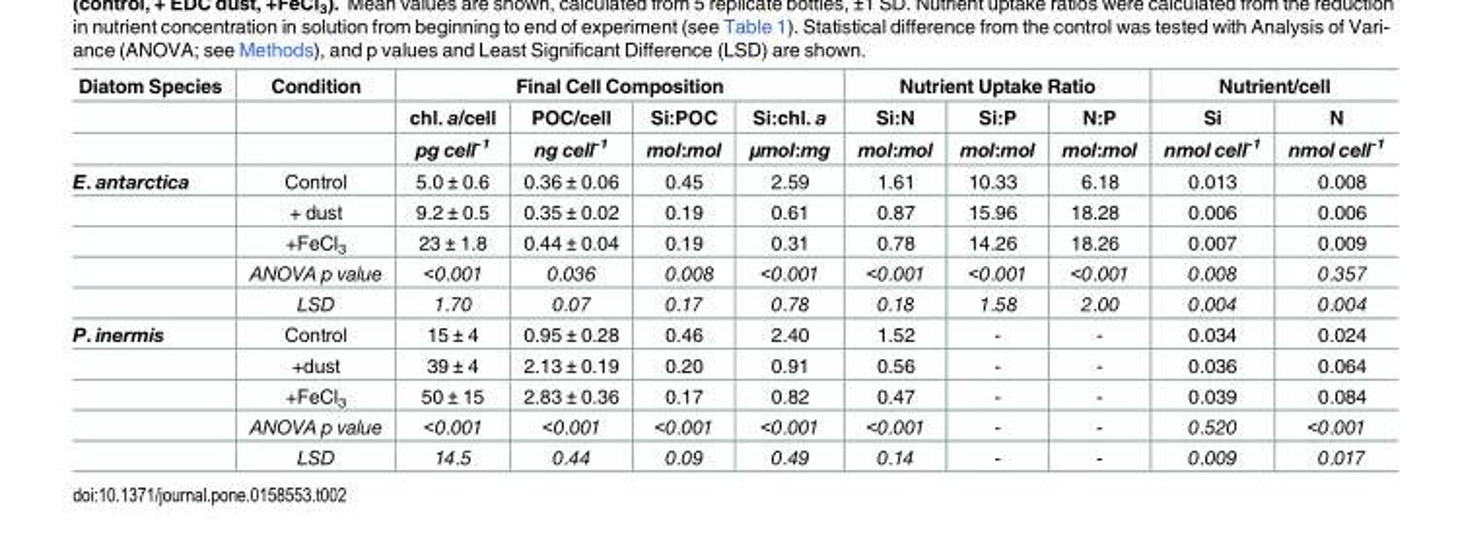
<table><thead><tr><td rowspan="3">Diatom Species</td><td rowspan="3">Condition</td><td colspan="4">Final Cell Composition</td><td colspan="3">Nutrient Uptake Ratio</td><td colspan="2">Nutrient/cell</td></tr><tr><td rowspan="2">chl. a/cell pg cell<sup>-1</sup></td><td rowspan="2">POC/cell ng cell<sup>-1</sup></td><td rowspan="2">Si:POC mol:mol</td><td rowspan="2">Si:chl. a μmol:mg</td><td rowspan="2">Si:N mol:mol</td><td rowspan="2">Si:P mol:mol</td><td rowspan="2">N:P mol:mol</td><td rowspan="2">Si nmol cell<sup>-1</sup></td><td rowspan="2">N nmol cell<sup>-1</sup></td></tr><tr></tr></thead><tbody><tr><td rowspan="5">E. antarctica</td><td>Control</td><td>5.0 ± 0.6</td><td>0.36 ± 0.06</td><td>0.45</td><td>2.59</td><td>1.61</td><td>10.33</td><td>6.18</td><td>0.013</td><td>0.008</td></tr><tr><td>+ dust</td><td>9.2 ± 0.5</td><td>0.35 ± 0.02</td><td>0.19</td><td>0.61</td><td>0.87</td><td>15.96</td><td>18.28</td><td>0.006</td><td>0.006</td></tr><tr><td>+FeCl<sub>3</sub></td><td>23 ± 1.8</td><td>0.44 ± 0.04</td><td>0.19</td><td>0.31</td><td>0.78</td><td>14.26</td><td>18.26</td><td>0.007</td><td>0.009</td></tr><tr><td>ANOVA p value</td><td>&lt;0.001</td><td>0.036</td><td>0.008</td><td>&lt;0.001</td><td>&lt;0.001</td><td>&lt;0.001</td><td>&lt;0.001</td><td>0.008</td><td>0.357</td></tr><tr><td>LSD</td><td>1.70</td><td>0.07</td><td>0.17</td><td>0.78</td><td>0.18</td><td>1.58</td><td>2.00</td><td>0.004</td><td>0.004</td></tr><tr><td rowspan="5">P. inermis</td><td>Control</td><td>15 ± 4</td><td>0.95 ± 0.28</td><td>0.46</td><td>2.40</td><td>1.52</td><td>-</td><td>-</td><td>0.034</td><td>0.024</td></tr><tr><td>+dust</td><td>39 ± 4</td><td>2.13 ± 0.19</td><td>0.20</td><td>0.91</td><td>0.56</td><td>-</td><td>-</td><td>0.036</td><td>0.064</td></tr><tr><td>+FeCl<sub>3</sub></td><td>50 ± 15</td><td>2.83 ± 0.36</td><td>0.17</td><td>0.82</td><td>0.47</td><td>-</td><td>-</td><td>0.039</td><td>0.084</td></tr><tr><td>ANOVA p value</td><td>&lt;0.001</td><td>&lt;0.001</td><td>&lt;0.001</td><td>&lt;0.001</td><td>&lt;0.001</td><td>-</td><td>-</td><td>0.520</td><td>&lt;0.001</td></tr><tr><td>LSD</td><td>14.5</td><td>0.44</td><td>0.09</td><td>0.49</td><td>0.14</td><td>-</td><td>-</td><td>0.009</td><td>0.017</td></tr></tbody></table>